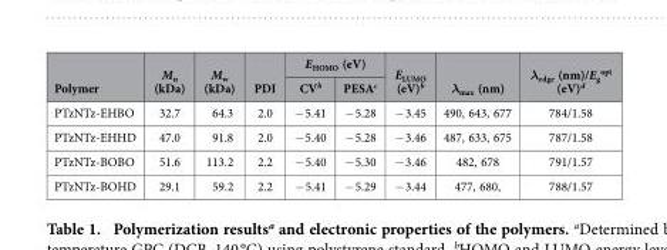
<table><thead><tr><td rowspan="2">Polymer</td><td rowspan="2">M<sub>n</sub> (kDa)</td><td rowspan="2">M<sub>w</sub> (kDa)</td><td rowspan="2">PDI</td><td colspan="2">E<sub>HOMO</sub> (eV)</td><td rowspan="2">E<sub>LUMO</sub> (eV)<sup>b</sup></td><td rowspan="2">λ<sub>max</sub> (nm)</td><td rowspan="2">λ<sub>edge</sub> (nm)/E<sub>g</sub> <sup>opt</sup> (eV)<sup>d</sup></td></tr><tr><td>CV<sup>b</sup></td><td>PESA<sup>c</sup></td></tr></thead><tbody><tr><td>PTzNTz-EHBO</td><td>32.7</td><td>64.3</td><td>2.0</td><td>− 5.41</td><td>− 5.28</td><td>− 3.45</td><td>490, 643, 677</td><td>784/1.58</td></tr><tr><td>PTzNTz-EHHD</td><td>47.0</td><td>91.8</td><td>2.0</td><td>− 5.40</td><td>− 5.28</td><td>− 3.46</td><td>487, 633, 675</td><td>787/1.58</td></tr><tr><td>PTzNTz-BOBO</td><td>51.6</td><td>113.2</td><td>2.2</td><td>− 5.40</td><td>− 5.30</td><td>− 3.46</td><td>482, 678</td><td>791/1.57</td></tr><tr><td>PTzNTz-BOHD</td><td>29.1</td><td>59.2</td><td>2.2</td><td>− 5.41</td><td>− 5.29</td><td>− 3.44</td><td>477, 680,</td><td>788/1.57</td></tr></tbody></table>